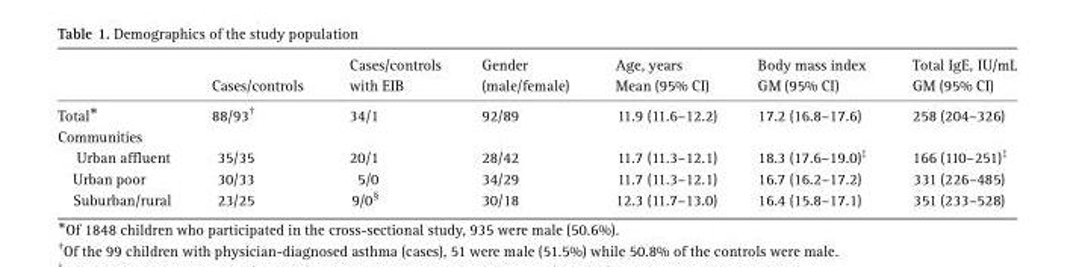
<table><thead><tr><td></td><td>Cases/controls</td><td>Cases/controls with EIB</td><td>Gender (male/female)</td><td>Age, years Mean (95% CI)</td><td>Body mass index GM (95% CI)</td><td>Total IgE, IU/mL GM (95% CI)</td></tr></thead><tbody><tr><td>Total*</td><td>88/93†</td><td>34/1</td><td>92/89</td><td>11.9 (11.6–12.2)</td><td>17.2 (16.8–17.6)</td><td>258 (204–326)</td></tr><tr><td colspan="7">Communities</td></tr><tr><td>Urban affluent</td><td>35/35</td><td>20/1</td><td>28/42</td><td>11.7 (11.3–12.1)</td><td>18.3 (17.6–19.0)‡</td><td>166 (110–251)‡</td></tr><tr><td>Urban poor</td><td>30/33</td><td>5/0</td><td>34/29</td><td>11.7 (11.3–12.1)</td><td>16.7 (16.2–17.2)</td><td>331 (226–485)</td></tr><tr><td>Suburban/rural</td><td>23/25</td><td>9/0‰</td><td>30/18</td><td>12.3 (11.7–13.0)</td><td>16.4 (15.8–17.1)</td><td>351 (233–528)</td></tr></tbody></table>